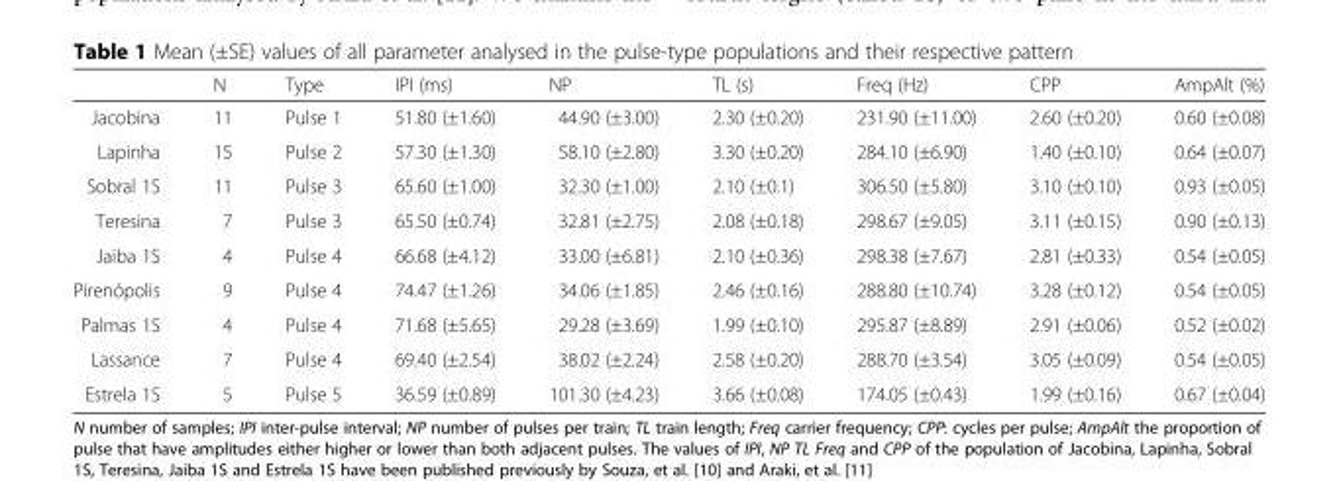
<table><thead><tr><td></td><td>N</td><td>Type</td><td>IPI (ms)</td><td>NP</td><td>TL (s)</td><td>Freq (Hz)</td><td>CPP</td><td>AmpAlt (%)</td></tr></thead><tbody><tr><td>Jacobina</td><td>11</td><td>Pulse 1</td><td>51.80 (±1.60)</td><td>44.90 (±3.00)</td><td>2.30 (±0.20)</td><td>231.90 (±11.00)</td><td>2.60 (±0.20)</td><td>0.60 (±0.08)</td></tr><tr><td>Lapinha</td><td>15</td><td>Pulse 2</td><td>57.30 (±1.30)</td><td>58.10 (±2.80)</td><td>3.30 (±0.20)</td><td>284.10 (±6.90)</td><td>1.40 (±0.10)</td><td>0.64 (±0.07)</td></tr><tr><td>Sobral 1S</td><td>11</td><td>Pulse 3</td><td>65.60 (±1.00)</td><td>32.30 (±1.00)</td><td>2.10 (±0.1)</td><td>306.50 (±5.80)</td><td>3.10 (±0.10)</td><td>0.93 (±0.05)</td></tr><tr><td>Teresina</td><td>7</td><td>Pulse 3</td><td>65.50 (±0.74)</td><td>32.81 (±2.75)</td><td>2.08 (±0.18)</td><td>298.67 (±9.05)</td><td>3.11 (±0.15)</td><td>0.90 (±0.13)</td></tr><tr><td>Jaiba 1S</td><td>4</td><td>Pulse 4</td><td>66.68 (±4.12)</td><td>33.00 (±6.81)</td><td>2.10 (±0.36)</td><td>298.38 (±7.67)</td><td>2.81 (±0.33)</td><td>0.54 (±0.05)</td></tr><tr><td>Pirenópolis</td><td>9</td><td>Pulse 4</td><td>74.47 (±1.26)</td><td>34.06 (±1.85)</td><td>2.46 (±0.16)</td><td>288.80 (±10.74)</td><td>3.28 (±0.12)</td><td>0.54 (±0.05)</td></tr><tr><td>Palmas 1S</td><td>4</td><td>Pulse 4</td><td>71.68 (±5.65)</td><td>29.28 (±3.69)</td><td>1.99 (±0.10)</td><td>295.87 (±8.89)</td><td>2.91 (±0.06)</td><td>0.52 (±0.02)</td></tr><tr><td>Lassance</td><td>7</td><td>Pulse 4</td><td>69.40 (±2.54)</td><td>38.02 (±2.24)</td><td>2.58 (±0.20)</td><td>288.70 (±3.54)</td><td>3.05 (±0.09)</td><td>0.54 (±0.05)</td></tr><tr><td>Estrela 1S</td><td>5</td><td>Pulse 5</td><td>36.59 (±0.89)</td><td>101.30 (±4.23)</td><td>3.66 (±0.08)</td><td>174.05 (±0.43)</td><td>1.99 (±0.16)</td><td>0.67 (±0.04)</td></tr></tbody></table>